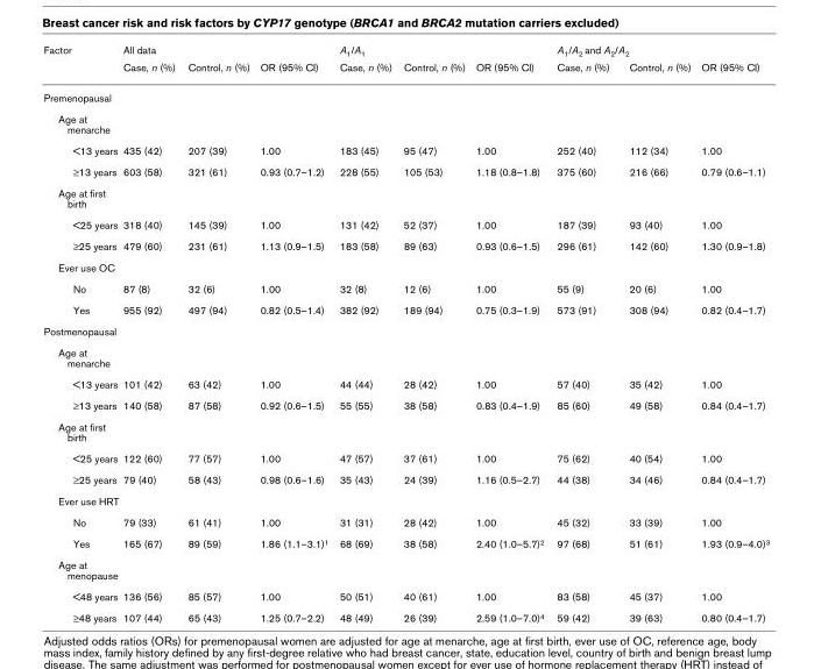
<table><thead><tr><td rowspan="2">Factor</td><td colspan="3">All data</td><td colspan="3">A1/A1</td><td colspan="3">A1/A2 and A2/A2</td></tr><tr><td>Case, n (%)</td><td>Control, n (%)</td><td>OR (95% CI)</td><td>Case, n (%)</td><td>Control, n (%)</td><td>OR (95% CI)</td><td>Case, n (%)</td><td>Control, n (%)</td><td>OR (95% CI)</td></tr></thead><tbody><tr><td colspan="10">Premenopausal</td></tr><tr><td colspan="10">Age at menarche</td></tr><tr><td>&lt;13 years</td><td>435 (42)</td><td>207 (39)</td><td>1.00</td><td>183 (45)</td><td>95 (47)</td><td>1.00</td><td>252 (40)</td><td>112 (34)</td><td>1.00</td></tr><tr><td>≥13 years</td><td>603 (58)</td><td>321 (61)</td><td>0.93 (0.7–1.2)</td><td>228 (55)</td><td>105 (53)</td><td>1.18 (0.8–1.8)</td><td>375 (60)</td><td>216 (66)</td><td>0.79 (0.6–1.1)</td></tr><tr><td colspan="10">Age at first birth</td></tr><tr><td>&lt;25 years</td><td>318 (40)</td><td>145 (39)</td><td>1.00</td><td>131 (42)</td><td>52 (37)</td><td>1.00</td><td>187 (39)</td><td>93 (40)</td><td>1.00</td></tr><tr><td>≥25 years</td><td>479 (60)</td><td>231 (61)</td><td>1.13 (0.9–1.5)</td><td>183 (58)</td><td>89 (63)</td><td>0.93 (0.6–1.5)</td><td>296 (61)</td><td>142 (60)</td><td>1.30 (0.9–1.8)</td></tr><tr><td colspan="10">Ever use OC</td></tr><tr><td>No</td><td>87 (8)</td><td>32 (6)</td><td>1.00</td><td>32 (8)</td><td>12 (6)</td><td>1.00</td><td>55 (9)</td><td>20 (6)</td><td>1.00</td></tr><tr><td>Yes</td><td>955 (92)</td><td>497 (94)</td><td>0.82 (0.5–1.4)</td><td>382 (92)</td><td>189 (94)</td><td>0.75 (0.3–1.9)</td><td>573 (91)</td><td>308 (94)</td><td>0.82 (0.4–1.7)</td></tr><tr><td colspan="10">Postmenopausal</td></tr><tr><td colspan="10">Age at menarche</td></tr><tr><td>&lt;13 years</td><td>101 (42)</td><td>63 (42)</td><td>1.00</td><td>44 (44)</td><td>28 (42)</td><td>1.00</td><td>57 (40)</td><td>35 (42)</td><td>1.00</td></tr><tr><td>≥13 years</td><td>140 (58)</td><td>87 (58)</td><td>0.92 (0.6–1.5)</td><td>55 (55)</td><td>38 (58)</td><td>0.83 (0.4–1.9)</td><td>85 (60)</td><td>49 (58)</td><td>0.84 (0.4–1.7)</td></tr><tr><td colspan="10">Age at first birth</td></tr><tr><td>&lt;25 years</td><td>122 (60)</td><td>77 (57)</td><td>1.00</td><td>47 (57)</td><td>37 (61)</td><td>1.00</td><td>75 (62)</td><td>40 (54)</td><td>1.00</td></tr><tr><td>≥25 years</td><td>79 (40)</td><td>58 (43)</td><td>0.98 (0.6–1.6)</td><td>35 (43)</td><td>24 (39)</td><td>1.16 (0.5–2.7)</td><td>44 (38)</td><td>34 (46)</td><td>0.84 (0.4–1.7)</td></tr><tr><td colspan="10">Ever use HRT</td></tr><tr><td>No</td><td>79 (33)</td><td>61 (41)</td><td>1.00</td><td>31 (31)</td><td>28 (42)</td><td>1.00</td><td>45 (32)</td><td>33 (39)</td><td>1.00</td></tr><tr><td>Yes</td><td>165 (67)</td><td>89 (59)</td><td>1.86 (1.1–3.1)1</td><td>68 (69)</td><td>38 (58)</td><td>2.40 (1.0–5.7)2</td><td>97 (68)</td><td>51 (61)</td><td>1.93 (0.9–4.0)3</td></tr><tr><td colspan="10">Age at menopause</td></tr><tr><td>&lt;48 years</td><td>136 (56)</td><td>85 (57)</td><td>1.00</td><td>50 (51)</td><td>40 (61)</td><td>1.00</td><td>83 (58)</td><td>45 (37)</td><td>1.00</td></tr><tr><td>≥48 years</td><td>107 (44)</td><td>65 (43)</td><td>1.25 (0.7–2.2)</td><td>48 (49)</td><td>26 (39)</td><td>2.59 (1.0–7.0)4</td><td>59 (42)</td><td>39 (63)</td><td>0.80 (0.4–1.7)</td></tr></tbody></table>